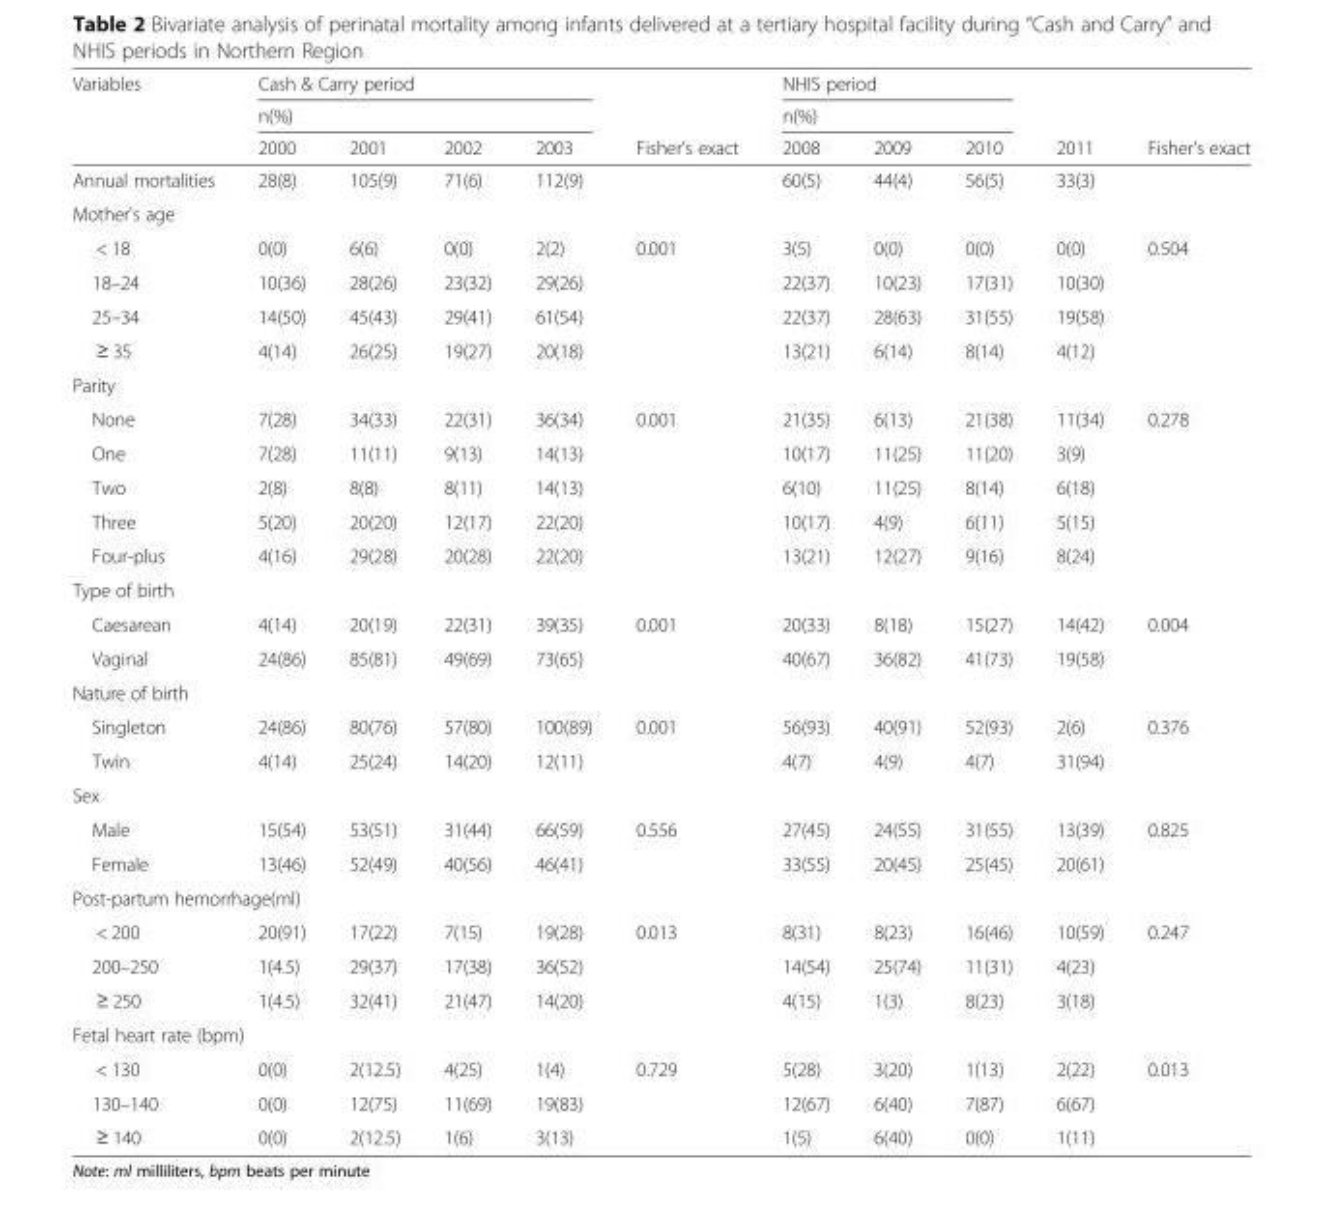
<table><thead><tr><td rowspan="3">Variables</td><td rowspan="2" colspan="4">Cash &amp; Carry period n(%)</td><td rowspan="3">Fisher’s exact</td><td rowspan="2" colspan="3">NHIS period n(%)</td><td rowspan="3">2011</td><td rowspan="3">Fisher’s exact</td></tr><tr></tr><tr><td>2000</td><td>2001</td><td>2002</td><td>2003</td><td>2008</td><td>2009</td><td>2010</td></tr></thead><tbody><tr><td>Annual mortalities</td><td>28(8)</td><td>105(9)</td><td>71(6)</td><td>112(9)</td><td></td><td>60(5)</td><td>44(4)</td><td>56(5)</td><td>33(3)</td><td></td></tr><tr><td colspan="11">Mother&#x27;s age</td></tr><tr><td>&lt; 18</td><td>0(0)</td><td>6(6)</td><td>0(0)</td><td>2(2)</td><td rowspan="4">0.001</td><td>3(5)</td><td>0(0)</td><td>0(0)</td><td>0(0)</td><td rowspan="4">0.504</td></tr><tr><td>18–24</td><td>10(36)</td><td>28(26)</td><td>23(32)</td><td>29(26)</td><td>22(37)</td><td>10(23)</td><td>17(31)</td><td>10(30)</td></tr><tr><td>25–34</td><td>14(50)</td><td>45(43)</td><td>29(41)</td><td>61(54)</td><td>22(37)</td><td>28(63)</td><td>31(55)</td><td>19(58)</td></tr><tr><td>≥ 35</td><td>4(14)</td><td>26(25)</td><td>19(27)</td><td>20(18)</td><td>13(21)</td><td>6(14)</td><td>8(14)</td><td>4(12)</td></tr><tr><td colspan="11">Parity</td></tr><tr><td>None</td><td>7(28)</td><td>34(33)</td><td>22(31)</td><td>36(34)</td><td rowspan="5">0.001</td><td>21(35)</td><td>6(13)</td><td>21(38)</td><td>11(34)</td><td rowspan="5">0.278</td></tr><tr><td>One</td><td>7(28)</td><td>11(11)</td><td>9(13)</td><td>14(13)</td><td>10(17)</td><td>11(25)</td><td>11(20)</td><td>3(9)</td></tr><tr><td>Two</td><td>2(8)</td><td>8(8)</td><td>8(11)</td><td>14(13)</td><td>6(10)</td><td>11(25)</td><td>8(14)</td><td>6(18)</td></tr><tr><td>Three</td><td>5(20)</td><td>20(20)</td><td>12(17)</td><td>22(20)</td><td>10(17)</td><td>4(9)</td><td>6(11)</td><td>5(15)</td></tr><tr><td>Four-plus</td><td>4(16)</td><td>29(28)</td><td>20(28)</td><td>22(20)</td><td>13(21)</td><td>12(27)</td><td>9(16)</td><td>8(24)</td></tr><tr><td colspan="11">Type of birth</td></tr><tr><td>Caesarean</td><td>4(14)</td><td>20(19)</td><td>22(31)</td><td>39(35)</td><td rowspan="2">0.001</td><td>20(33)</td><td>8(18)</td><td>15(27)</td><td>14(42)</td><td rowspan="2">0.004</td></tr><tr><td>Vaginal</td><td>24(86)</td><td>85(81)</td><td>49(69)</td><td>73(65)</td><td>40(67)</td><td>36(82)</td><td>41(73)</td><td>19(58)</td></tr><tr><td colspan="11">Nature of birth</td></tr><tr><td>Singleton</td><td>24(86)</td><td>80(76)</td><td>57(80)</td><td>100(89)</td><td rowspan="2">0.001</td><td>56(93)</td><td>40(91)</td><td>52(93)</td><td>2(6)</td><td rowspan="2">0.376</td></tr><tr><td>Twin</td><td>4(14)</td><td>25(24)</td><td>14(20)</td><td>12(11)</td><td>4(7)</td><td>4(9)</td><td>4(7)</td><td>31(94)</td></tr><tr><td colspan="11">Sex</td></tr><tr><td>Male</td><td>15(54)</td><td>53(51)</td><td>31(44)</td><td>66(59)</td><td rowspan="2">0.556</td><td>27(45)</td><td>24(55)</td><td>31(55)</td><td>13(39)</td><td rowspan="2">0.825</td></tr><tr><td>Female</td><td>13(46)</td><td>52(49)</td><td>40(56)</td><td>46(41)</td><td>33(55)</td><td>20(45)</td><td>25(45)</td><td>20(61)</td></tr><tr><td colspan="11">Post-partum hemorrhage(ml)</td></tr><tr><td>&lt; 200</td><td>20(91)</td><td>17(22)</td><td>7(15)</td><td>19(28)</td><td rowspan="3">0.013</td><td>8(31)</td><td>8(23)</td><td>16(46)</td><td>10(59)</td><td rowspan="3">0.247</td></tr><tr><td>200–250</td><td>1(4.5)</td><td>29(37)</td><td>17(38)</td><td>36(52)</td><td>14(54)</td><td>25(74)</td><td>11(31)</td><td>4(23)</td></tr><tr><td>≥ 250</td><td>1(4.5)</td><td>32(41)</td><td>21(47)</td><td>14(20)</td><td>4(15)</td><td>1(3)</td><td>8(23)</td><td>3(18)</td></tr><tr><td colspan="11">Fetal heart rate (bpm)</td></tr><tr><td>&lt; 130</td><td>0(0)</td><td>2(12.5)</td><td>4(25)</td><td>1(4)</td><td rowspan="3">0.729</td><td>5(28)</td><td>3(20)</td><td>1(13)</td><td>2(22)</td><td rowspan="3">0.013</td></tr><tr><td>130–140</td><td>0(0)</td><td>12(75)</td><td>11(69)</td><td>19(83)</td><td>12(67)</td><td>6(40)</td><td>7(87)</td><td>6(67)</td></tr><tr><td>≥ 140</td><td>0(0)</td><td>2(12.5)</td><td>1(6)</td><td>3(13)</td><td>1(5)</td><td>6(40)</td><td>0(0)</td><td>1(11)</td></tr></tbody></table>